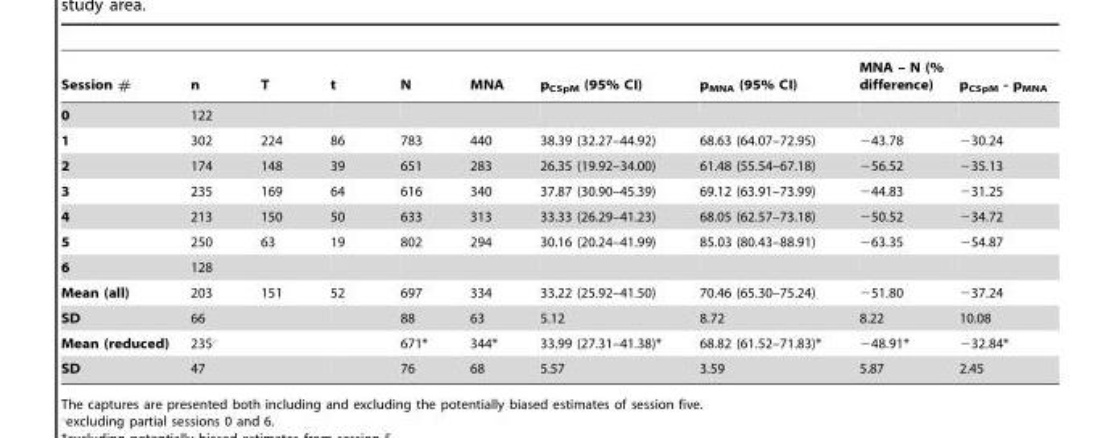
<table><thead><tr><td>Session #</td><td>n</td><td>T</td><td>t</td><td>N</td><td>MNA</td><td>p<sub>CSpM</sub> (95% CI)</td><td>p<sub>MNA</sub> (95% CI)</td><td>MNA – N (% difference)</td><td>p<sub>CSpM</sub> - p<sub>MNA</sub></td></tr></thead><tbody><tr><td>0</td><td>122</td><td></td><td></td><td></td><td></td><td></td><td></td><td></td><td></td></tr><tr><td>1</td><td>302</td><td>224</td><td>86</td><td>783</td><td>440</td><td>38.39 (32.27–44.92)</td><td>68.63 (64.07–72.95)</td><td>−43.78</td><td>−30.24</td></tr><tr><td>2</td><td>174</td><td>148</td><td>39</td><td>651</td><td>283</td><td>26.35 (19.92–34.00)</td><td>61.48 (55.54–67.18)</td><td>−56.52</td><td>−35.13</td></tr><tr><td>3</td><td>235</td><td>169</td><td>64</td><td>616</td><td>340</td><td>37.87 (30.90–45.39)</td><td>69.12 (63.91–73.99)</td><td>−44.83</td><td>−31.25</td></tr><tr><td>4</td><td>213</td><td>150</td><td>50</td><td>633</td><td>313</td><td>33.33 (26.29–41.23)</td><td>68.05 (62.57–73.18)</td><td>−50.52</td><td>−34.72</td></tr><tr><td>5</td><td>250</td><td>63</td><td>19</td><td>802</td><td>294</td><td>30.16 (20.24–41.99)</td><td>85.03 (80.43–88.91)</td><td>−63.35</td><td>−54.87</td></tr><tr><td>6</td><td>128</td><td></td><td></td><td></td><td></td><td></td><td></td><td></td><td></td></tr><tr><td>Mean (all)</td><td>203</td><td>151</td><td>52</td><td>697</td><td>334</td><td>33.22 (25.92–41.50)</td><td>70.46 (65.30–75.24)</td><td>−51.80</td><td>−37.24</td></tr><tr><td>SD</td><td>66</td><td></td><td></td><td>88</td><td>63</td><td>5.12</td><td>8.72</td><td>8.22</td><td>10.08</td></tr><tr><td>Mean (reduced)</td><td>235‘</td><td></td><td></td><td>671*</td><td>344*</td><td>33.99 (27.31–41.38)*</td><td>68.82 (61.52–71.83)*</td><td>−48.91*</td><td>−32.84*</td></tr><tr><td>SD</td><td>47</td><td></td><td></td><td>76</td><td>68</td><td>5.57</td><td>3.59</td><td>5.87</td><td>2.45</td></tr></tbody></table>